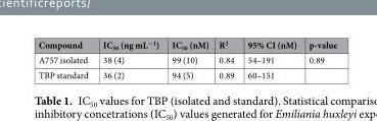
<table><thead><tr><td>Compound</td><td>IC<sub>50</sub> (ng mL<sup>−1</sup>)</td><td>IC<sub>50</sub> (nM)</td><td>R<sup>2</sup></td><td>95% CI (nM)</td><td>p-value</td></tr></thead><tbody><tr><td>A757 isolated</td><td>38 (4)</td><td>99 (10)</td><td>0.84</td><td>54–191</td><td>0.89</td></tr><tr><td>TBP standard</td><td>36 (2)</td><td>94 (5)</td><td>0.89</td><td>60–151</td><td></td></tr></tbody></table>